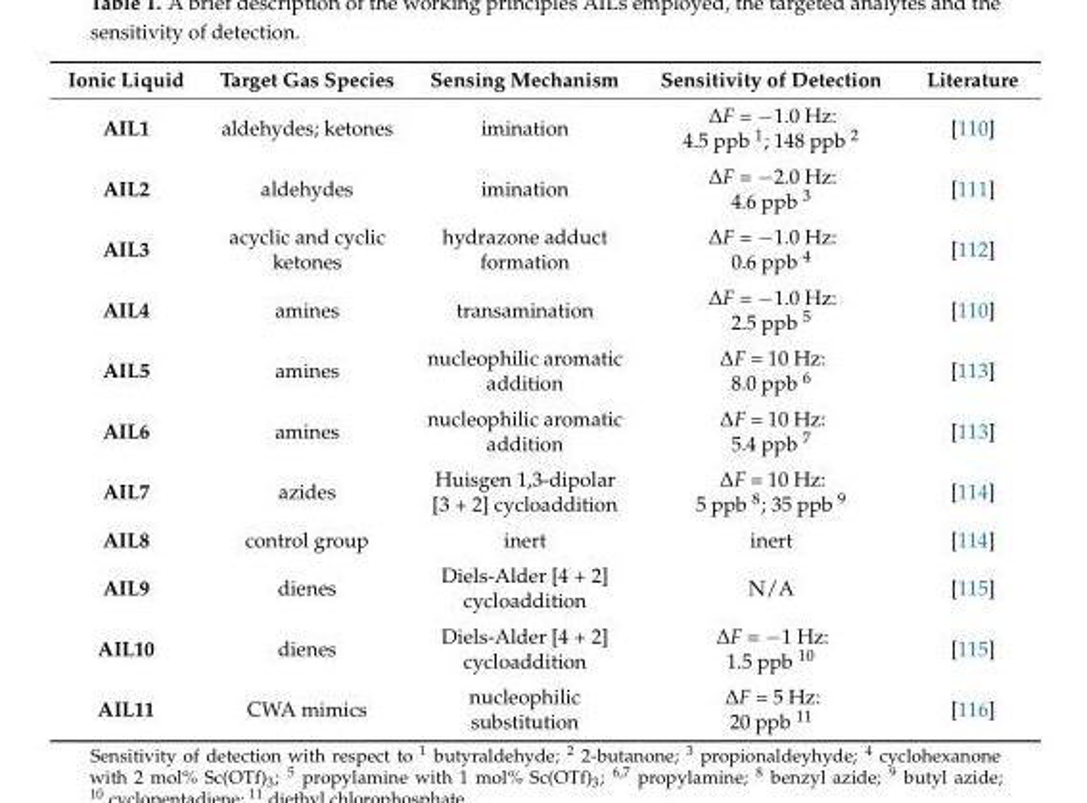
<table><thead><tr><td>Ionic Liquid</td><td>Target Gas Species</td><td>Sensing Mechanism</td><td>Sensitivity of Detection</td><td>Literature</td></tr></thead><tbody><tr><td>AIL1</td><td>aldehydes; ketones</td><td>imination</td><td>∆F = −1.0 Hz: 4.5 ppb 1; 148 ppb 2</td><td>[110]</td></tr><tr><td>AIL2</td><td>aldehydes</td><td>imination</td><td>∆F = −2.0 Hz: 4.6 ppb 3</td><td>[111]</td></tr><tr><td>AIL3</td><td>acyclic and cyclic ketones</td><td>hydrazone adduct formation</td><td>∆F = −1.0 Hz: 0.6 ppb 4</td><td>[112]</td></tr><tr><td>AIL4</td><td>amines</td><td>transamination</td><td>∆F = −1.0 Hz: 2.5 ppb 5</td><td>[110]</td></tr><tr><td>AIL5</td><td>amines</td><td>nucleophilic aromatic addition</td><td>∆F = 10 Hz: 8.0 ppb 6</td><td>[113]</td></tr><tr><td>AIL6</td><td>amines</td><td>nucleophilic aromatic addition</td><td>∆F = 10 Hz: 5.4 ppb 7</td><td>[113]</td></tr><tr><td>AIL7</td><td>azides</td><td>Huisgen 1,3-dipolar [3 + 2] cycloaddition</td><td>∆F = 10 Hz: 5 ppb 8; 35 ppb 9</td><td>[114]</td></tr><tr><td>AIL8</td><td>control group</td><td>inert</td><td>inert</td><td>[114]</td></tr><tr><td>AIL9</td><td>dienes</td><td>Diels-Alder [4 + 2] cycloaddition</td><td>N/A</td><td>[115]</td></tr><tr><td>AIL10</td><td>dienes</td><td>Diels-Alder [4 + 2] cycloaddition</td><td>∆F = −1 Hz: 1.5 ppb 10</td><td>[115]</td></tr><tr><td>AIL11</td><td>CWA mimics</td><td>nucleophilic substitution</td><td>∆F = 5 Hz: 20 ppb 11</td><td>[116]</td></tr></tbody></table>